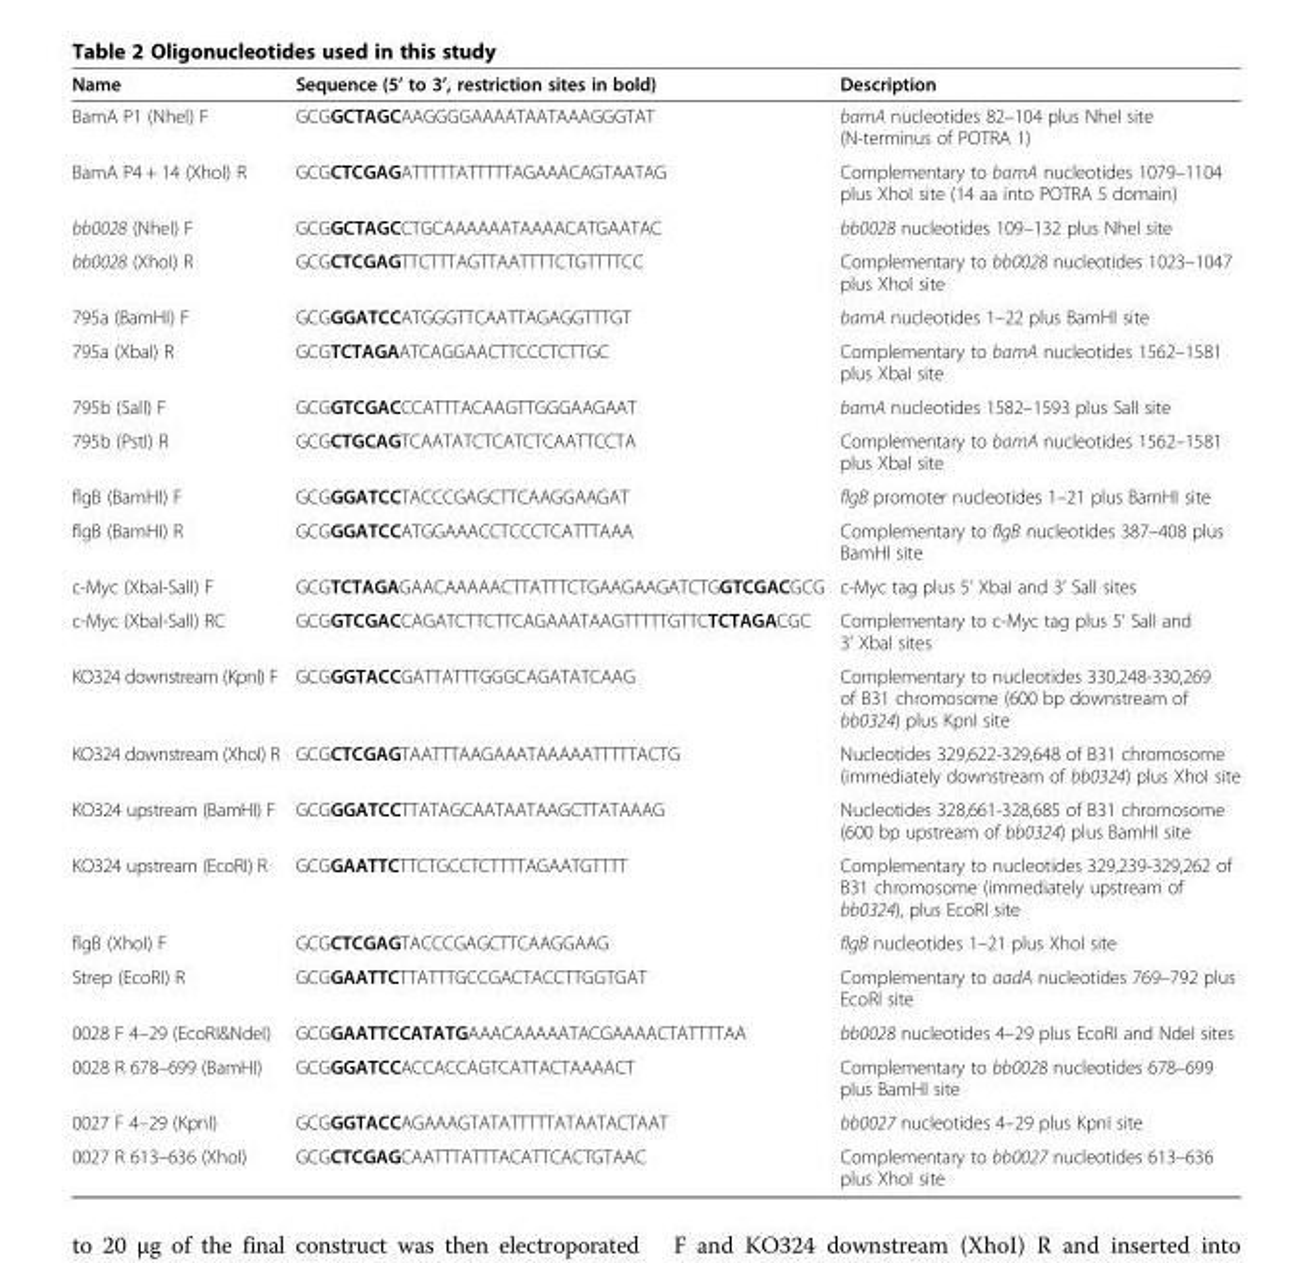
<table><thead><tr><td>Name</td><td>Sequence (5’ to 3’, restriction sites in bold)</td><td>Description</td></tr></thead><tbody><tr><td>BamA P1 (NheI) F</td><td>GCGGCTAGCAAGGGGAAAATAATAAAGGGTAT</td><td>bamA nucleotides 82–104 plus NheI site (N-terminus of POTRA 1)</td></tr><tr><td>BamA P4 + 14 (XhoI) R</td><td>GCGCTCGAGATTTTTATTTTTAGAAACAGTAATAG</td><td>Complementary to bamA nucleotides 1079–1104 plus XhoI site (14 aa into POTRA 5 domain)</td></tr><tr><td>bb0028 (NheI) F</td><td>GCGGCTAGCCTGCAAAAAATAAAACATGAATAC</td><td>bb0028 nucleotides 109–132 plus NheI site</td></tr><tr><td>bb0028 (XhoI) R</td><td>GCGCTCGAGTTCTTTAGTTAATTTTCTGTTTTCC</td><td>Complementary to bb0028 nucleotides 1023–1047 plus XhoI site</td></tr><tr><td>795a (BamHI) F</td><td>GCGGGATCCATGGGTTCAATTAGAGGTTTGT</td><td>bamA nucleotides 1–22 plus BamHI site</td></tr><tr><td>795a (XbaI) R</td><td>GCGTCTAGAATCAGGAACTTCCCTCTTGC</td><td>Complementary to bamA nucleotides 1562–1581 plus XbaI site</td></tr><tr><td>795b (SalI) F</td><td>GCGGTCGACCCATTTACAAGTTGGGAAGAAT</td><td>bamA nucleotides 1582–1593 plus SalI site</td></tr><tr><td>795b (PstI) R</td><td>GCGCTGCAGTCAATATCTCATCTCAATTCCTA</td><td>Complementary to bamA nucleotides 1562–1581 plus XbaI site</td></tr><tr><td>flgB (BamHI) F</td><td>GCGGGATCCTACCCGAGCTTCAAGGAAGAT</td><td>flgB promoter nucleotides 1–21 plus BamHI site</td></tr><tr><td>flgB (BamHI) R</td><td>GCGGGATCCATGGAAACCTCCCTCATTTAAA</td><td>Complementary to flgB nucleotides 387–408 plus BamHI site</td></tr><tr><td>c-Myc (XbaI-SalI) F</td><td>GCGTCTAGAGAACAAAAACTTATTTCTGAAGAAGATCTGGTCGACGCG</td><td>c-Myc tag plus 5’ XbaI and 3’ SalI sites</td></tr><tr><td>c-Myc (XbaI-SalI) RC</td><td>GCGGTCGACCAGATCTTCTTCAGAAATAAGTTTTTGTTCTCTAGACGC</td><td>Complementary to c-Myc tag plus 5’ SalI and 3’ XbaI sites</td></tr><tr><td>KO324 downstream (KpnI) F</td><td>GCGGGTACCGATTATTTGGGCAGATATCAAG</td><td>Complementary to nucleotides 330,248-330,269 of B31 chromosome (600 bp downstream of bb0324) plus KpnI site</td></tr><tr><td>KO324 downstream (XhoI) R</td><td>GCGCTCGAGTAATTTAAGAAATAAAAATTTTTACTG</td><td>Nucleotides 329,622-329,648 of B31 chromosome (immediately downstream of bb0324) plus XhoI site</td></tr><tr><td>KO324 upstream (BamHI) F</td><td>GCGGGATCCTTATAGCAATAATAAGCTTATAAAG</td><td>Nucleotides 328,661-328,685 of B31 chromosome (600 bp upstream of bb0324) plus BamHI site</td></tr><tr><td>KO324 upstream (EcoRI) R</td><td>GCGGAATTCTTCTGCCTCTTTTAGAATGTTTT</td><td>Complementary to nucleotides 329,239-329,262 of B31 chromosome (immediately upstream of bb0324), plus EcoRI site</td></tr><tr><td>flgB (XhoI) F</td><td>GCGCTCGAGTACCCGAGCTTCAAGGAAG</td><td>flgB nucleotides 1–21 plus XhoI site</td></tr><tr><td>Strep (EcoRI) R</td><td>GCGGAATTCTTATTTGCCGACTACCTTGGTGAT</td><td>Complementary to aadA nucleotides 769–792 plus EcoRI site</td></tr><tr><td>0028 F 4–29 (EcoRI&amp;NdeI)</td><td>GCGGAATTCCATATGAAACAAAAATACGAAAACTATTTTAA</td><td>bb0028 nucleotides 4–29 plus EcoRI and NdeI sites</td></tr><tr><td>0028 R 678–699 (BamHI)</td><td>GCGGGATCCACCACCAGTCATTACTAAAACT</td><td>Complementary to bb0028 nucleotides 678–699 plus BamHI site</td></tr><tr><td>0027 F 4–29 (KpnI)</td><td>GCGGGTACCAGAAAGTATATTTTTATAATACTAAT</td><td>bb0027 nucleotides 4–29 plus KpnI site</td></tr><tr><td>0027 R 613–636 (XhoI)</td><td>GCGCTCGAGCAATTTATTTACATTCACTGTAAC</td><td>Complementary to bb0027 nucleotides 613–636 plus XhoI site</td></tr></tbody></table>